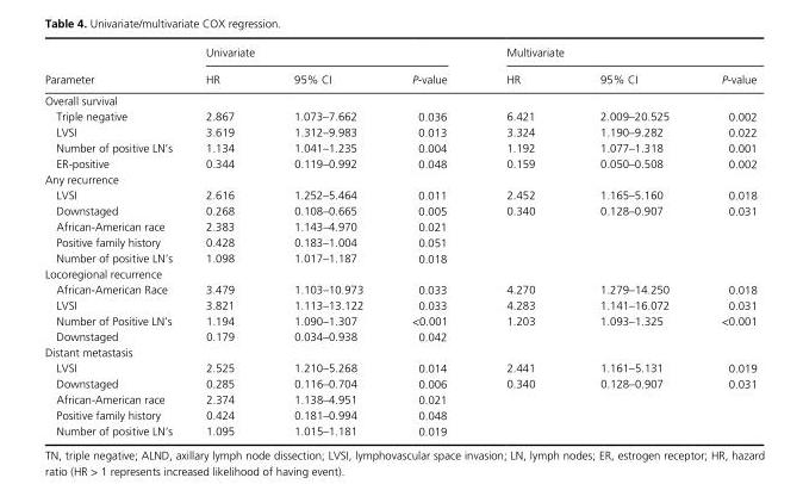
<table><thead><tr><td rowspan="2">Parameter</td><td colspan="3">Univariate</td><td colspan="3">Multivariate</td></tr><tr><td>HR</td><td>95% CI</td><td>P- value</td><td>HR</td><td>95% CI</td><td>P- value</td></tr></thead><tbody><tr><td colspan="7">Overall survival</td></tr><tr><td>Triple negative</td><td>2.867</td><td>1.073–7.662</td><td>0.036</td><td>6.421</td><td>2.009–20.525</td><td>0.002</td></tr><tr><td>LVSI</td><td>3.619</td><td>1.312–9.983</td><td>0.013</td><td>3.324</td><td>1.190–9.282</td><td>0.022</td></tr><tr><td>Number of positive LN’s</td><td>1.134</td><td>1.041–1.235</td><td>0.004</td><td>1.192</td><td>1.077–1.318</td><td>0.001</td></tr><tr><td>ER- positive</td><td>0.344</td><td>0.119–0.992</td><td>0.048</td><td>0.159</td><td>0.050–0.508</td><td>0.002</td></tr><tr><td colspan="7">Any recurrence</td></tr><tr><td>LVSI</td><td>2.616</td><td>1.252–5.464</td><td>0.011</td><td>2.452</td><td>1.165–5.160</td><td>0.018</td></tr><tr><td>Downstaged</td><td>0.268</td><td>0.108–0.665</td><td>0.005</td><td>0.340</td><td>0.128–0.907</td><td>0.031</td></tr><tr><td>African- American race</td><td>2.383</td><td>1.143–4.970</td><td>0.021</td><td></td><td></td><td></td></tr><tr><td>Positive family history</td><td>0.428</td><td>0.183–1.004</td><td>0.051</td><td></td><td></td><td></td></tr><tr><td>Number of positive LN’s</td><td>1.098</td><td>1.017–1.187</td><td>0.018</td><td></td><td></td><td></td></tr><tr><td colspan="7">Locoregional recurrence</td></tr><tr><td>African- American Race</td><td>3.479</td><td>1.103–10.973</td><td>0.033</td><td>4.270</td><td>1.279–14.250</td><td>0.018</td></tr><tr><td>LVSI</td><td>3.821</td><td>1.113–13.122</td><td>0.033</td><td>4.283</td><td>1.141–16.072</td><td>0.031</td></tr><tr><td>Number of Positive LN’s</td><td>1.194</td><td>1.090–1.307</td><td>&lt;0.001</td><td>1.203</td><td>1.093–1.325</td><td>&lt;0.001</td></tr><tr><td>Downstaged</td><td>0.179</td><td>0.034–0.938</td><td>0.042</td><td></td><td></td><td></td></tr><tr><td colspan="7">Distant metastasis</td></tr><tr><td>LVSI</td><td>2.525</td><td>1.210–5.268</td><td>0.014</td><td>2.441</td><td>1.161–5.131</td><td>0.019</td></tr><tr><td>Downstaged</td><td>0.285</td><td>0.116–0.704</td><td>0.006</td><td>0.340</td><td>0.128–0.907</td><td>0.031</td></tr><tr><td>African- American race</td><td>2.374</td><td>1.138–4.951</td><td>0.021</td><td></td><td></td><td></td></tr><tr><td>Positive family history</td><td>0.424</td><td>0.181–0.994</td><td>0.048</td><td></td><td></td><td></td></tr><tr><td>Number of positive LN’s</td><td>1.095</td><td>1.015–1.181</td><td>0.019</td><td></td><td></td><td></td></tr></tbody></table>